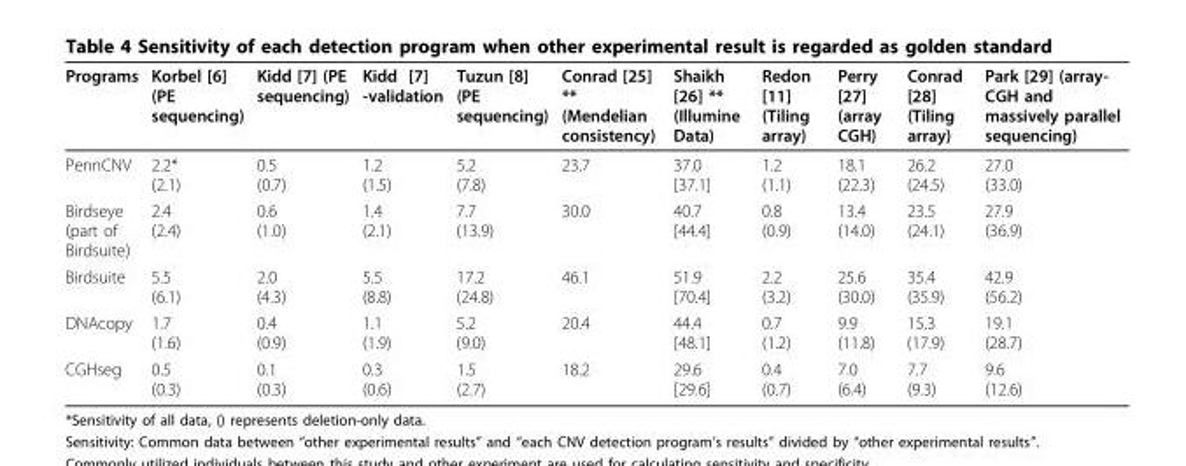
<table><thead><tr><td>Programs</td><td>Korbel [6] (PE sequencing)</td><td>Kidd [7] (PE sequencing)</td><td>Kidd [7] -validation</td><td>Tuzun [8] (PE sequencing)</td><td>Conrad [25] ** (Mendelian consistency)</td><td>Shaikh [26] ** (Illumine Data)</td><td>Redon [11] (Tiling array)</td><td>Perry [27] (array CGH)</td><td>Conrad [28] (Tiling array)</td><td>Park [29] (array- CGH and massively parallel sequencing)</td></tr></thead><tbody><tr><td>PennCNV</td><td>2.2* (2.1)</td><td>0.5 (0.7)</td><td>1.2 (1.5)</td><td>5.2 (7.8)</td><td>23.7</td><td>37.0 [37.1]</td><td>1.2 (1.1)</td><td>18.1 (22.3)</td><td>26.2 (24.5)</td><td>27.0 (33.0)</td></tr><tr><td>Birdseye (part of Birdsuite)</td><td>2.4 (2.4)</td><td>0.6 (1.0)</td><td>1.4 (2.1)</td><td>7.7 (13.9)</td><td>30.0</td><td>40.7 [44.4]</td><td>0.8 (0.9)</td><td>13.4 (14.0)</td><td>23.5 (24.1)</td><td>27.9 (36.9)</td></tr><tr><td>Birdsuite</td><td>5.5 (6.1)</td><td>2.0 (4.3)</td><td>5.5 (8.8)</td><td>17.2 (24.8)</td><td>46.1</td><td>51.9 [70.4]</td><td>2.2 (3.2)</td><td>25.6 (30.0)</td><td>35.4 (35.9)</td><td>42.9 (56.2)</td></tr><tr><td>DNAcopy</td><td>1.7 (1.6)</td><td>0.4 (0.9)</td><td>1.1 (1.9)</td><td>5.2 (9.0)</td><td>20.4</td><td>44.4 [48.1]</td><td>0.7 (1.2)</td><td>9.9 (11.8)</td><td>15.3 (17.9)</td><td>19.1 (28.7)</td></tr><tr><td>CGHseg</td><td>0.5 (0.3)</td><td>0.1 (0.3)</td><td>0.3 (0.6)</td><td>1.5 (2.7)</td><td>18.2</td><td>29.6 [29.6]</td><td>0.4 (0.7)</td><td>7.0 (6.4)</td><td>7.7 (9.3)</td><td>9.6 (12.6)</td></tr></tbody></table>